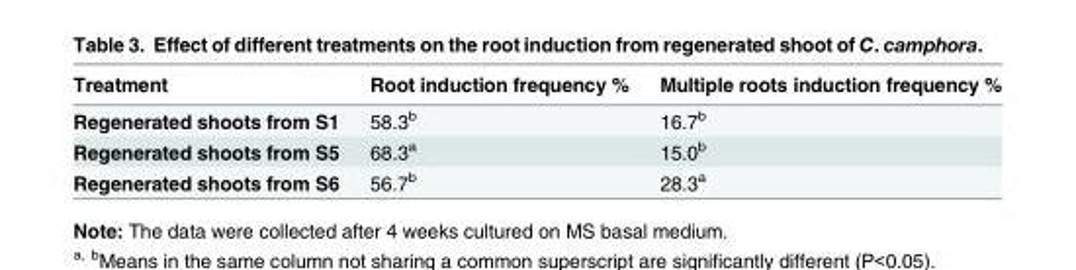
<table><thead><tr><td>Treatment</td><td>Root induction frequency %</td><td>Multiple roots induction frequency %</td></tr></thead><tbody><tr><td>Regenerated shoots from S1</td><td>58.3<sup>b</sup></td><td>16.7<sup>b</sup></td></tr><tr><td>Regenerated shoots from S5</td><td>68.3<sup>a</sup></td><td>15.0<sup>b</sup></td></tr><tr><td>Regenerated shoots from S6</td><td>56.7<sup>b</sup></td><td>28.3<sup>a</sup></td></tr></tbody></table>